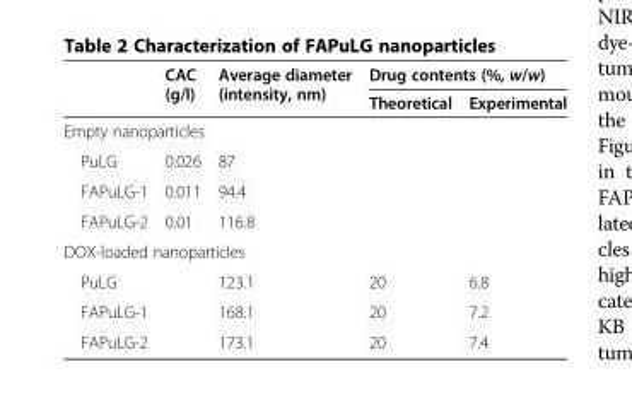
<table><thead><tr><td rowspan="2"></td><td rowspan="2">CAC (g/l)</td><td rowspan="2">Average diameter (intensity, nm)</td><td colspan="2">Drug contents (%, w/w)</td></tr><tr><td>Theoretical</td><td>Experimental</td></tr></thead><tbody><tr><td colspan="5">Empty nanoparticles</td></tr><tr><td>PuLG</td><td>0.026</td><td>87</td><td></td><td></td></tr><tr><td>FAPuLG-1</td><td>0.011</td><td>94.4</td><td></td><td></td></tr><tr><td>FAPuLG-2</td><td>0.01</td><td>116.8</td><td></td><td></td></tr><tr><td colspan="5">DOX-loaded nanoparticles</td></tr><tr><td>PuLG</td><td></td><td>123.1</td><td>20</td><td>6.8</td></tr><tr><td>FAPuLG-1</td><td></td><td>168.1</td><td>20</td><td>7.2</td></tr><tr><td>FAPuLG-2</td><td></td><td>173.1</td><td>20</td><td>7.4</td></tr></tbody></table>